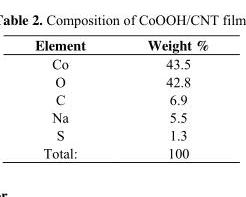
<table><thead><tr><td>Element</td><td>Weight %</td></tr></thead><tbody><tr><td>Co</td><td>43.5</td></tr><tr><td>O</td><td>42.8</td></tr><tr><td>C</td><td>6.9</td></tr><tr><td>Na</td><td>5.5</td></tr><tr><td>S</td><td>1.3</td></tr><tr><td>Total:</td><td>100</td></tr></tbody></table>